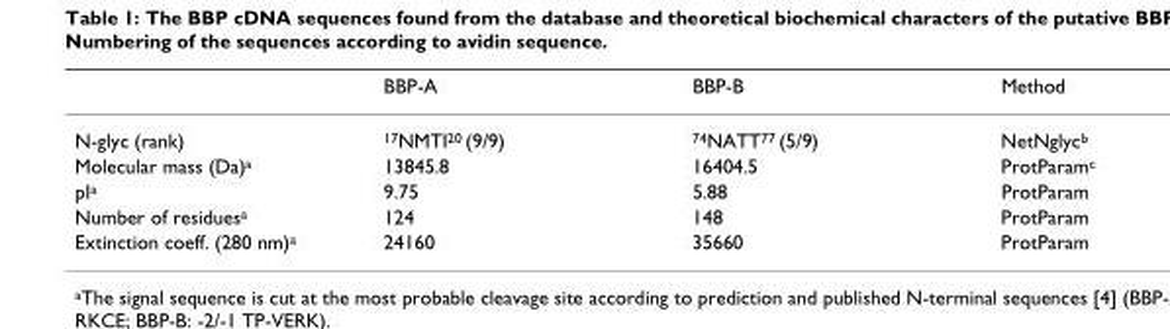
<table><thead><tr><td></td><td>BBP-A</td><td>BBP-B</td><td>Method</td></tr></thead><tbody><tr><td>N-glyc (rank)</td><td><sup>17</sup>NMTI<sup>20</sup> (9/9)</td><td><sup>74</sup>NATT<sup>77</sup> (5/9)</td><td>NetNglyc<sup>b</sup></td></tr><tr><td>Molecular mass (Da)<sup>a</sup></td><td>13845.8</td><td>16404.5</td><td>ProtParam<sup>c</sup></td></tr><tr><td>pI<sup>a</sup></td><td>9.75</td><td>5.88</td><td>ProtParam</td></tr><tr><td>Number of residues<sup>a</sup></td><td>124</td><td>148</td><td>ProtParam</td></tr><tr><td>Extinction coeff. (280 nm)<sup>a</sup></td><td>24160</td><td>35660</td><td>ProtParam</td></tr></tbody></table>